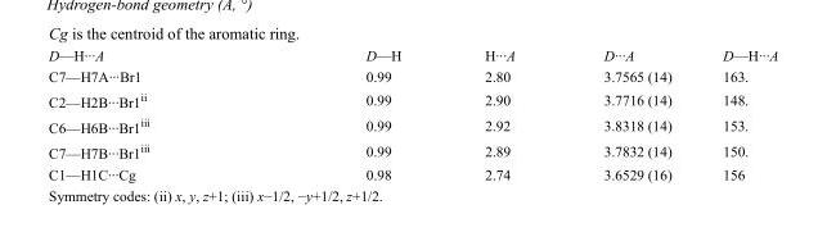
<table><tbody><tr><td>D—H···A</td><td>D—H</td><td>H···A</td><td>D···A</td><td>D—H···A</td></tr><tr><td>C7—H7A···Br1</td><td>0.99</td><td>2.80</td><td>3.7565 (14)</td><td>163.</td></tr><tr><td>C2—H2B···Br1<sup>ii</sup></td><td>0.99</td><td>2.90</td><td>3.7716 (14)</td><td>148.</td></tr><tr><td>C6—H6B···Br1<sup>iii</sup></td><td>0.99</td><td>2.92</td><td>3.8318 (14)</td><td>153.</td></tr><tr><td>C7—H7B···Br1<sup>iii</sup></td><td>0.99</td><td>2.89</td><td>3.7832 (14)</td><td>150.</td></tr><tr><td>C1—H1C···Cg</td><td>0.98</td><td>2.74</td><td>3.6529 (16)</td><td>156</td></tr></tbody></table>